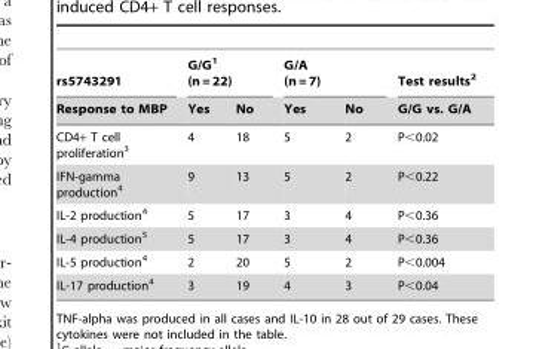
<table><thead><tr><td rowspan="2">rs5743291 Response to MBP</td><td colspan="2">G/G<sup>1</sup> (n = 22)</td><td colspan="2">G/A (n = 7)</td><td rowspan="2">Test results<sup>2</sup> G/G vs. G/A</td></tr><tr><td>Yes</td><td>No</td><td>Yes</td><td>No</td></tr></thead><tbody><tr><td>CD4+ T cell proliferation<sup>3</sup></td><td>4</td><td>18</td><td>5</td><td>2</td><td>P&lt;0.02</td></tr><tr><td>IFN-gamma production<sup>4</sup></td><td>9</td><td>13</td><td>5</td><td>2</td><td>P&lt;0.22</td></tr><tr><td>IL-2 production<sup>4</sup></td><td>5</td><td>17</td><td>3</td><td>4</td><td>P&lt;0.36</td></tr><tr><td>IL-4 production<sup>5</sup></td><td>5</td><td>17</td><td>3</td><td>4</td><td>P&lt;0.36</td></tr><tr><td>IL-5 production<sup>4</sup></td><td>2</td><td>20</td><td>5</td><td>2</td><td>P&lt;0.004</td></tr><tr><td>IL-17 production<sup>4</sup></td><td>3</td><td>19</td><td>4</td><td>3</td><td>P&lt;0.04</td></tr></tbody></table>